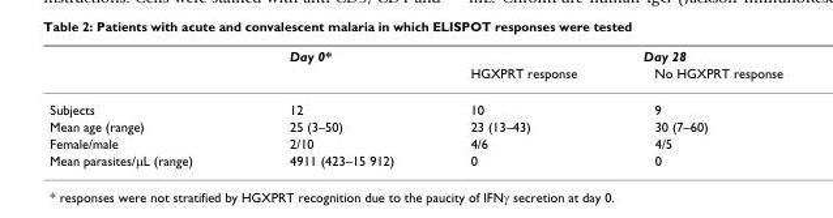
<table><thead><tr><td rowspan="2"></td><td rowspan="2">Day 0*</td><td colspan="2">Day 28</td></tr><tr><td>HGXPRT response</td><td>No HGXPRT response</td></tr></thead><tbody><tr><td>Subjects</td><td>12</td><td>10</td><td>9</td></tr><tr><td>Mean age (range)</td><td>25 (3–50)</td><td>23 (13–43)</td><td>30 (7–60)</td></tr><tr><td>Female/male</td><td>2/10</td><td>4/6</td><td>4/5</td></tr><tr><td>Mean parasites/μL (range)</td><td>4911 (423–15 912)</td><td>0</td><td>0</td></tr></tbody></table>